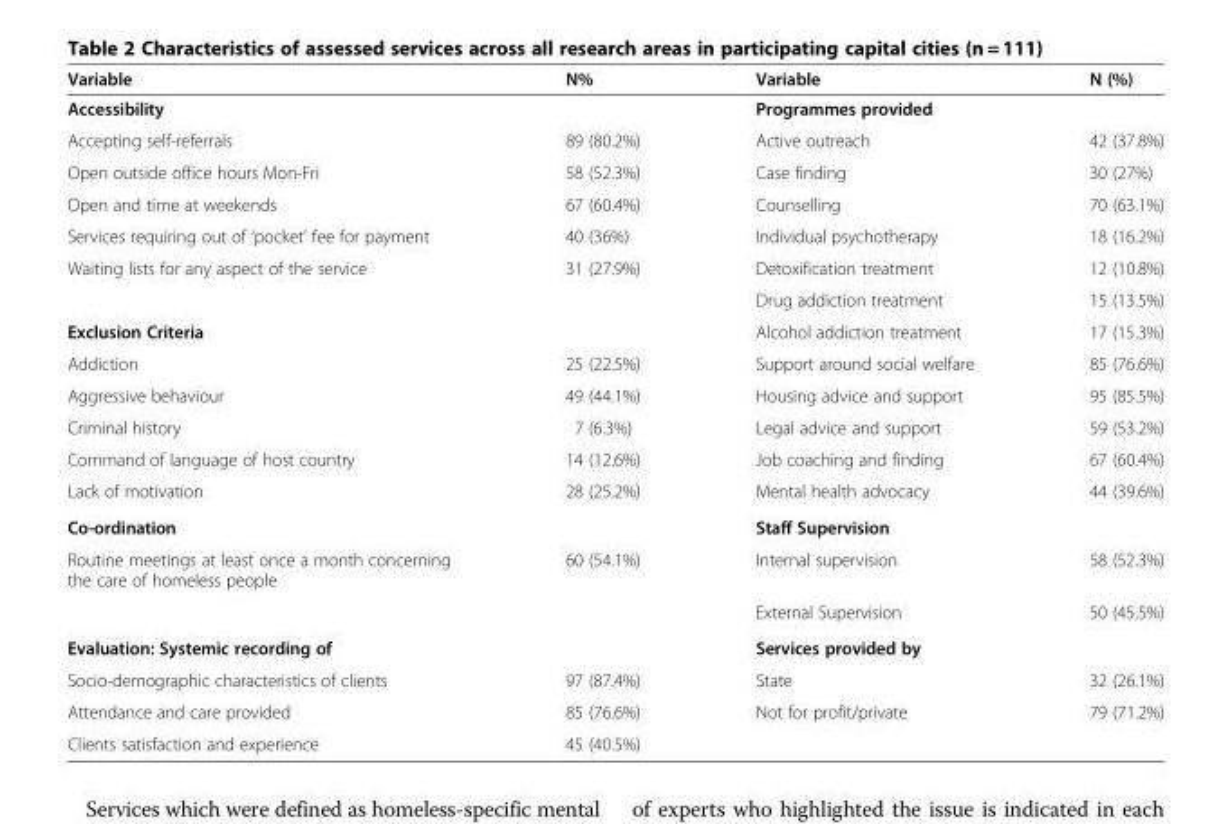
<table><thead><tr><td>Variable</td><td>N%</td><td>Variable</td><td>N (%)</td></tr></thead><tbody><tr><td>Accessibility</td><td></td><td>Programmes provided</td><td></td></tr><tr><td>Accepting self-referrals</td><td>89 (80.2%)</td><td>Active outreach</td><td>42 (37.8%)</td></tr><tr><td>Open outside office hours Mon-Fri</td><td>58 (52.3%)</td><td>Case finding</td><td>30 (27%)</td></tr><tr><td>Open and time at weekends</td><td>67 (60.4%)</td><td>Counselling</td><td>70 (63.1%)</td></tr><tr><td>Services requiring out of ‘pocket’ fee for payment</td><td>40 (36%)</td><td>Individual psychotherapy</td><td>18 (16.2%)</td></tr><tr><td rowspan="2">Waiting lists for any aspect of the service</td><td>31 (27.9%)</td><td>Detoxification treatment</td><td>12 (10.8%)</td></tr><tr><td></td><td>Drug addiction treatment</td><td>15 (13.5%)</td></tr><tr><td>Exclusion Criteria</td><td></td><td>Alcohol addiction treatment</td><td>17 (15.3%)</td></tr><tr><td>Addiction</td><td>25 (22.5%)</td><td>Support around social welfare</td><td>85 (76.6%)</td></tr><tr><td>Aggressive behaviour</td><td>49 (44.1%)</td><td>Housing advice and support</td><td>95 (85.5%)</td></tr><tr><td>Criminal history</td><td>7 (6.3%)</td><td>Legal advice and support</td><td>59 (53.2%)</td></tr><tr><td>Command of language of host country</td><td>14 (12.6%)</td><td>Job coaching and finding</td><td>67 (60.4%)</td></tr><tr><td>Lack of motivation</td><td>28 (25.2%)</td><td>Mental health advocacy</td><td>44 (39.6%)</td></tr><tr><td>Co-ordination</td><td></td><td>Staff Supervision</td><td></td></tr><tr><td rowspan="2">Routine meetings at least once a month concerning the care of homeless people</td><td>60 (54.1%)</td><td>Internal supervision</td><td>58 (52.3%)</td></tr><tr><td></td><td>External Supervision</td><td>50 (45.5%)</td></tr><tr><td>Evaluation: Systemic recording of</td><td></td><td>Services provided by</td><td></td></tr><tr><td>Socio-demographic characteristics of clients</td><td>97 (87.4%)</td><td>State</td><td>32 (26.1%)</td></tr><tr><td>Attendance and care provided</td><td>85 (76.6%)</td><td>Not for profit/private</td><td>79 (71.2%)</td></tr><tr><td>Clients satisfaction and experience</td><td>45 (40.5%)</td><td></td><td></td></tr></tbody></table>